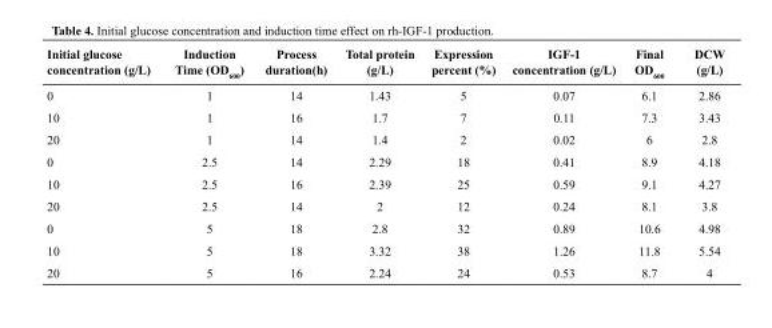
<table><thead><tr><td>DCW (g/L)</td><td>Final OD<sub>600</sub></td><td>IGF-1 concentration (g/L)</td><td>Expression percent (%)</td><td>Total protein (g/L)</td><td>Process duration(h)</td><td>Induction Time (OD<sub>600</sub>)</td><td>Initial glucose concentration (g/L)</td></tr></thead><tbody><tr><td>2.86</td><td>6.1</td><td>0.07</td><td>5</td><td>1.43</td><td>14</td><td>1</td><td>0</td></tr><tr><td>3.43</td><td>7.3</td><td>0.11</td><td>7</td><td>1.7</td><td>16</td><td>1</td><td>10</td></tr><tr><td>2.8</td><td>6</td><td>0.02</td><td>2</td><td>1.4</td><td>14</td><td>1</td><td>20</td></tr><tr><td>4.18</td><td>8.9</td><td>0.41</td><td>18</td><td>2.29</td><td>14</td><td>2.5</td><td>0</td></tr><tr><td>4.27</td><td>9.1</td><td>0.59</td><td>25</td><td>2.39</td><td>16</td><td>2.5</td><td>10</td></tr><tr><td>3.8</td><td>8.1</td><td>0.24</td><td>12</td><td>2</td><td>14</td><td>2.5</td><td>20</td></tr><tr><td>4.98</td><td>10.6</td><td>0.89</td><td>32</td><td>2.8</td><td>18</td><td>5</td><td>0</td></tr><tr><td>5.54</td><td>11.8</td><td>1.26</td><td>38</td><td>3.32</td><td>18</td><td>5</td><td>10</td></tr><tr><td>4</td><td>8.7</td><td>0.53</td><td>24</td><td>2.24</td><td>16</td><td>5</td><td>20</td></tr></tbody></table>